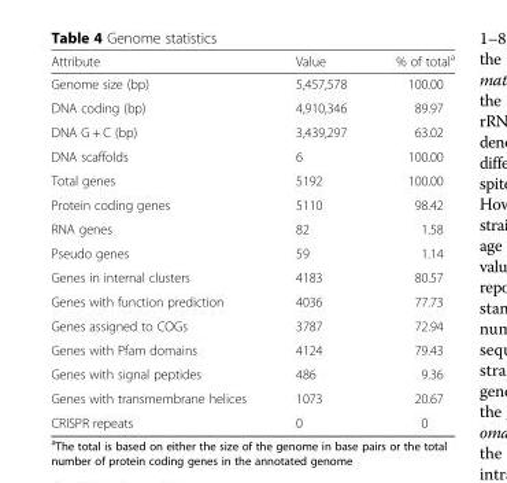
<table><thead><tr><td>Attribute</td><td>Value</td><td>% of total<sup>a</sup></td></tr></thead><tbody><tr><td>Genome size (bp)</td><td>5,457,578</td><td>100.00</td></tr><tr><td>DNA coding (bp)</td><td>4,910,346</td><td>89.97</td></tr><tr><td>DNA G + C (bp)</td><td>3,439,297</td><td>63.02</td></tr><tr><td>DNA scaffolds</td><td>6</td><td>100.00</td></tr><tr><td>Total genes</td><td>5192</td><td>100.00</td></tr><tr><td>Protein coding genes</td><td>5110</td><td>98.42</td></tr><tr><td>RNA genes</td><td>82</td><td>1.58</td></tr><tr><td>Pseudo genes</td><td>59</td><td>1.14</td></tr><tr><td>Genes in internal clusters</td><td>4183</td><td>80.57</td></tr><tr><td>Genes with function prediction</td><td>4036</td><td>77.73</td></tr><tr><td>Genes assigned to COGs</td><td>3787</td><td>72.94</td></tr><tr><td>Genes with Pfam domains</td><td>4124</td><td>79.43</td></tr><tr><td>Genes with signal peptides</td><td>486</td><td>9.36</td></tr><tr><td>Genes with transmembrane helices</td><td>1073</td><td>20.67</td></tr><tr><td>CRISPR repeats</td><td>0</td><td>0</td></tr></tbody></table>